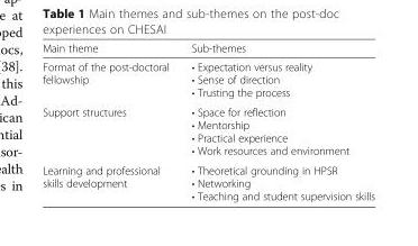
<table><thead><tr><td>Main theme</td><td>Sub-themes</td></tr></thead><tbody><tr><td>Format of the post-doctoral fellowship</td><td>• Expectation versus reality • Sense of direction • Trusting the process</td></tr><tr><td>Support structures</td><td>• Space for reflection • Mentorship • Practical experience • Work resources and environment</td></tr><tr><td>Learning and professional skills development</td><td>• Theoretical grounding in HPSR • Networking • Teaching and student supervision skills</td></tr></tbody></table>